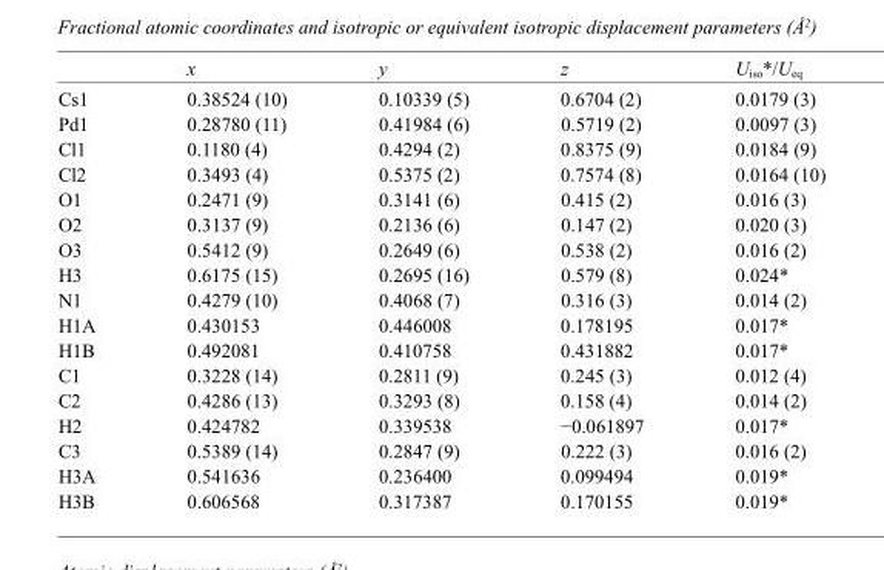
<table><thead><tr><td></td><td>x</td><td>y</td><td>z</td><td>U<sub>iso</sub>*/U<sub>eq</sub></td></tr></thead><tbody><tr><td>Cs1</td><td>0.38524 (10)</td><td>0.10339 (5)</td><td>0.6704 (2)</td><td>0.0179 (3)</td></tr><tr><td>Pd1</td><td>0.28780 (11)</td><td>0.41984 (6)</td><td>0.5719 (2)</td><td>0.0097 (3)</td></tr><tr><td>Cl1</td><td>0.1180 (4)</td><td>0.4294 (2)</td><td>0.8375 (9)</td><td>0.0184 (9)</td></tr><tr><td>Cl2</td><td>0.3493 (4)</td><td>0.5375 (2)</td><td>0.7574 (8)</td><td>0.0164 (10)</td></tr><tr><td>O1</td><td>0.2471 (9)</td><td>0.3141 (6)</td><td>0.415 (2)</td><td>0.016 (3)</td></tr><tr><td>O2</td><td>0.3137 (9)</td><td>0.2136 (6)</td><td>0.147 (2)</td><td>0.020 (3)</td></tr><tr><td>O3</td><td>0.5412 (9)</td><td>0.2649 (6)</td><td>0.538 (2)</td><td>0.016 (2)</td></tr><tr><td>H3</td><td>0.6175 (15)</td><td>0.2695 (16)</td><td>0.579 (8)</td><td>0.024*</td></tr><tr><td>N1</td><td>0.4279 (10)</td><td>0.4068 (7)</td><td>0.316 (3)</td><td>0.014 (2)</td></tr><tr><td>H1A</td><td>0.430153</td><td>0.446008</td><td>0.178195</td><td>0.017*</td></tr><tr><td>H1B</td><td>0.492081</td><td>0.410758</td><td>0.431882</td><td>0.017*</td></tr><tr><td>C1</td><td>0.3228 (14)</td><td>0.2811 (9)</td><td>0.245 (3)</td><td>0.012 (4)</td></tr><tr><td>C2</td><td>0.4286 (13)</td><td>0.3293 (8)</td><td>0.158 (4)</td><td>0.014 (2)</td></tr><tr><td>H2</td><td>0.424782</td><td>0.339538</td><td>−0.061897</td><td>0.017*</td></tr><tr><td>C3</td><td>0.5389 (14)</td><td>0.2847 (9)</td><td>0.222 (3)</td><td>0.016 (2)</td></tr><tr><td>H3A</td><td>0.541636</td><td>0.236400</td><td>0.099494</td><td>0.019*</td></tr><tr><td>H3B</td><td>0.606568</td><td>0.317387</td><td>0.170155</td><td>0.019*</td></tr></tbody></table>